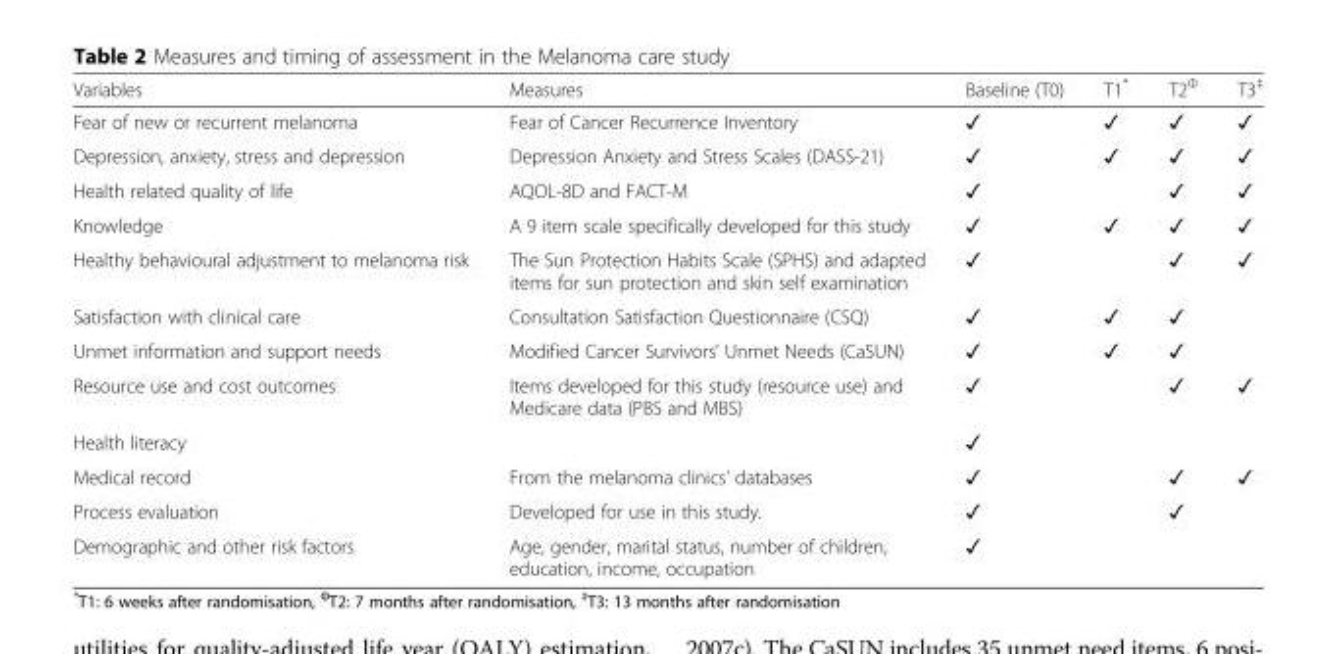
<table><thead><tr><td>Variables</td><td>Measures</td><td>Baseline (T0)</td><td>T1*</td><td>T2<sup>Φ</sup></td><td>T3<sup>‡</sup></td></tr></thead><tbody><tr><td>Fear of new or recurrent melanoma</td><td>Fear of Cancer Recurrence Inventory</td><td>✓</td><td>✓</td><td>✓</td><td>✓</td></tr><tr><td>Depression, anxiety, stress and depression</td><td>Depression Anxiety and Stress Scales (DASS-21)</td><td>✓</td><td>✓</td><td>✓</td><td>✓</td></tr><tr><td>Health related quality of life</td><td>AQOL-8D and FACT-M</td><td>✓</td><td></td><td>✓</td><td>✓</td></tr><tr><td>Knowledge</td><td>A 9 item scale specifically developed for this study</td><td>✓</td><td>✓</td><td>✓</td><td>✓</td></tr><tr><td>Healthy behavioural adjustment to melanoma risk</td><td>The Sun Protection Habits Scale (SPHS) and adapted items for sun protection and skin self examination</td><td>✓</td><td></td><td>✓</td><td>✓</td></tr><tr><td>Satisfaction with clinical care</td><td>Consultation Satisfaction Questionnaire (CSQ)</td><td>✓</td><td>✓</td><td>✓</td><td></td></tr><tr><td>Unmet information and support needs</td><td>Modified Cancer Survivors’ Unmet Needs (CaSUN)</td><td>✓</td><td>✓</td><td>✓</td><td></td></tr><tr><td>Resource use and cost outcomes</td><td>Items developed for this study (resource use) and Medicare data (PBS and MBS)</td><td>✓</td><td></td><td>✓</td><td>✓</td></tr><tr><td>Health literacy</td><td></td><td>✓</td><td></td><td></td><td></td></tr><tr><td>Medical record</td><td>From the melanoma clinics’ databases</td><td>✓</td><td></td><td>✓</td><td>✓</td></tr><tr><td>Process evaluation</td><td>Developed for use in this study.</td><td>✓</td><td></td><td>✓</td><td></td></tr><tr><td>Demographic and other risk factors</td><td>Age, gender, marital status, number of children, education, income, occupation</td><td>✓</td><td></td><td></td><td></td></tr></tbody></table>